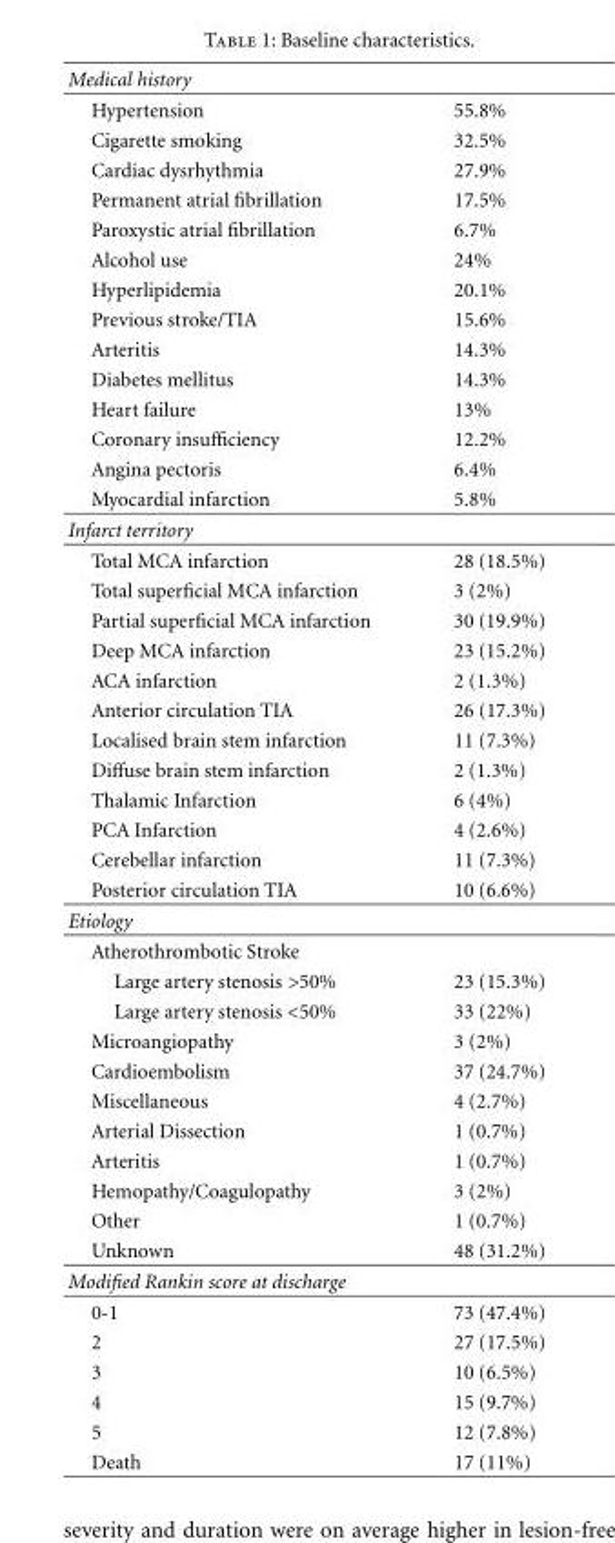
<table><tbody><tr><td colspan="2">Medical history</td></tr><tr><td>Hypertension</td><td>55.8%</td></tr><tr><td>Cigarette smoking</td><td>32.5%</td></tr><tr><td>Cardiac dysrhythmia</td><td>27.9%</td></tr><tr><td>Permanent atrial fibrillation</td><td>17.5%</td></tr><tr><td>Paroxystic atrial fibrillation</td><td>6.7%</td></tr><tr><td>Alcohol use</td><td>24%</td></tr><tr><td>Hyperlipidemia</td><td>20.1%</td></tr><tr><td>Previous stroke/TIA</td><td>15.6%</td></tr><tr><td>Arteritis</td><td>14.3%</td></tr><tr><td>Diabetes mellitus</td><td>14.3%</td></tr><tr><td>Heart failure</td><td>13%</td></tr><tr><td>Coronary insufficiency</td><td>12.2%</td></tr><tr><td>Angina pectoris</td><td>6.4%</td></tr><tr><td>Myocardial infarction</td><td>5.8%</td></tr><tr><td colspan="2">Infarct territory</td></tr><tr><td>Total MCA infarction</td><td>28 (18.5%)</td></tr><tr><td>Total superficial MCA infarction</td><td>3 (2%)</td></tr><tr><td>Partial superficial MCA infarction</td><td>30 (19.9%)</td></tr><tr><td>Deep MCA infarction</td><td>23 (15.2%)</td></tr><tr><td>ACA infarction</td><td>2 (1.3%)</td></tr><tr><td>Anterior circulation TIA</td><td>26 (17.3%)</td></tr><tr><td>Localised brain stem infarction</td><td>11 (7.3%)</td></tr><tr><td>Diffuse brain stem infarction</td><td>2 (1.3%)</td></tr><tr><td>Thalamic Infarction</td><td>6 (4%)</td></tr><tr><td>PCA Infarction</td><td>4 (2.6%)</td></tr><tr><td>Cerebellar infarction</td><td>11 (7.3%)</td></tr><tr><td>Posterior circulation TIA</td><td>10 (6.6%)</td></tr><tr><td colspan="2">Etiology</td></tr><tr><td colspan="2">Atherothrombotic Stroke</td></tr><tr><td>Large artery stenosis &gt;50%</td><td>23 (15.3%)</td></tr><tr><td>Large artery stenosis &lt;50%</td><td>33 (22%)</td></tr><tr><td>Microangiopathy</td><td>3 (2%)</td></tr><tr><td>Cardioembolism</td><td>37 (24.7%)</td></tr><tr><td>Miscellaneous</td><td>4 (2.7%)</td></tr><tr><td>Arterial Dissection</td><td>1 (0.7%)</td></tr><tr><td>Arteritis</td><td>1 (0.7%)</td></tr><tr><td>Hemopathy/Coagulopathy</td><td>3 (2%)</td></tr><tr><td>Other</td><td>1 (0.7%)</td></tr><tr><td>Unknown</td><td>48 (31.2%)</td></tr><tr><td colspan="2">Modified Rankin score at discharge</td></tr><tr><td>0-1</td><td>73 (47.4%)</td></tr><tr><td>2</td><td>27 (17.5%)</td></tr><tr><td>3</td><td>10 (6.5%)</td></tr><tr><td>4</td><td>15 (9.7%)</td></tr><tr><td>5</td><td>12 (7.8%)</td></tr><tr><td>Death</td><td>17 (11%)</td></tr></tbody></table>